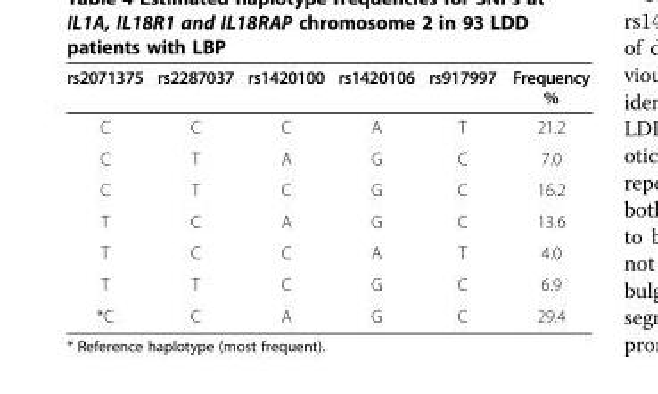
<table><thead><tr><td>rs2071375</td><td>rs2287037</td><td>rs1420100</td><td>rs1420106</td><td>rs917997</td><td>Frequency %</td></tr></thead><tbody><tr><td>C</td><td>C</td><td>C</td><td>A</td><td>T</td><td>21.2</td></tr><tr><td>C</td><td>T</td><td>A</td><td>G</td><td>C</td><td>7.0</td></tr><tr><td>C</td><td>T</td><td>C</td><td>G</td><td>C</td><td>16.2</td></tr><tr><td>T</td><td>C</td><td>A</td><td>G</td><td>C</td><td>13.6</td></tr><tr><td>T</td><td>C</td><td>C</td><td>A</td><td>T</td><td>4.0</td></tr><tr><td>T</td><td>T</td><td>C</td><td>G</td><td>C</td><td>6.9</td></tr><tr><td>*C</td><td>C</td><td>A</td><td>G</td><td>C</td><td>29.4</td></tr></tbody></table>